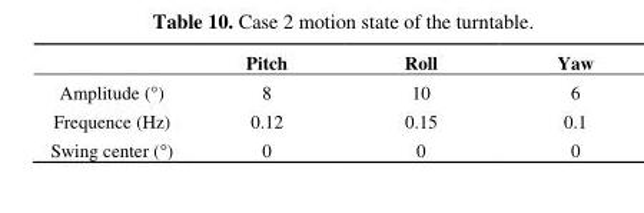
<table><thead><tr><td></td><td>Pitch</td><td>Roll</td><td>Yaw</td></tr></thead><tbody><tr><td>Amplitude (°)</td><td>8</td><td>10</td><td>6</td></tr><tr><td>Frequence (Hz)</td><td>0.12</td><td>0.15</td><td>0.1</td></tr><tr><td>Swing center (°)</td><td>0</td><td>0</td><td>0</td></tr></tbody></table>